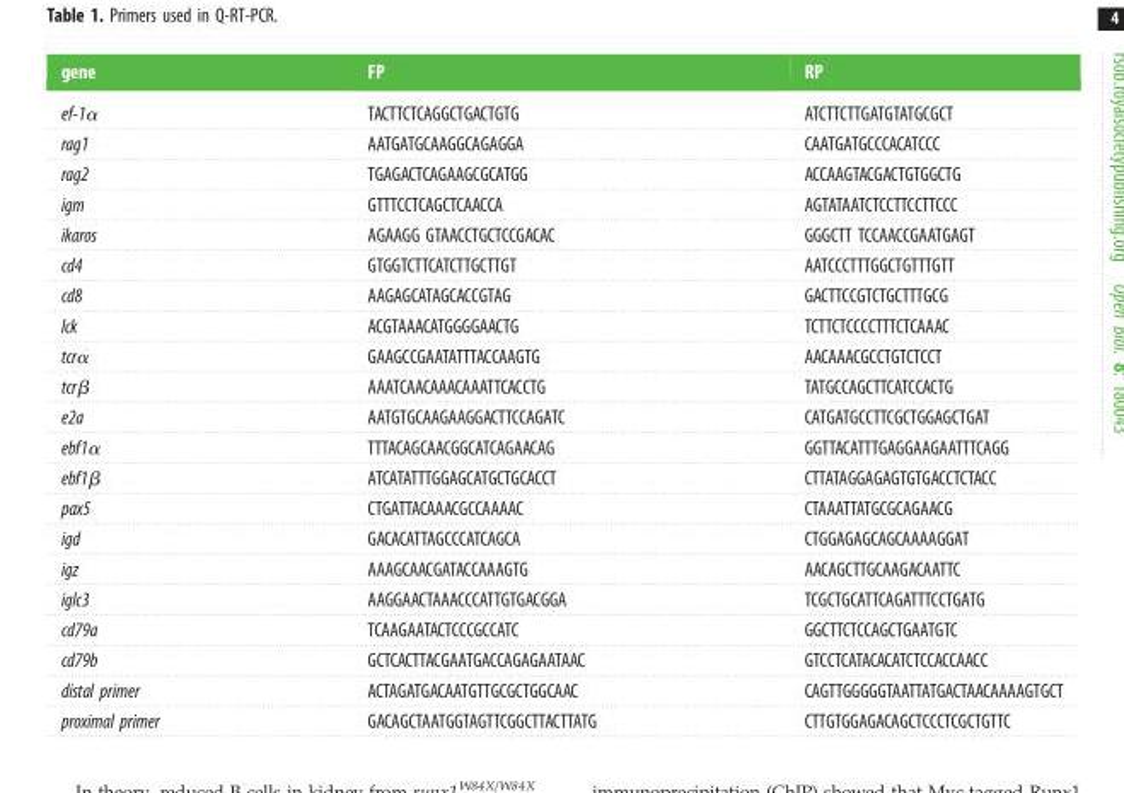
<table><thead><tr><td>gene</td><td>FP</td><td>RP</td></tr></thead><tbody><tr><td>ef-1α</td><td>TACTTCTCAGGCTGACTGTG</td><td>ATCTTCTTGATGTATGCGCT</td></tr><tr><td>rag1</td><td>AATGATGCAAGGCAGAGGA</td><td>CAATGATGCCCACATCCC</td></tr><tr><td>rag2</td><td>TGAGACTCAGAAGCGCATGG</td><td>ACCAAGTACGACTGTGGCTG</td></tr><tr><td>igm</td><td>GTTTCCTCAGCTCAACCA</td><td>AGTATAATCTCCTTCCTTCCC</td></tr><tr><td>ikaros</td><td>AGAAGG GTAACCTGCTCCGACAC</td><td>GGGCTT TCCAACCGAATGAGT</td></tr><tr><td>cd4</td><td>GTGGTCTTCATCTTGCTTGT</td><td>AATCCCTTTGGCTGTTTGTT</td></tr><tr><td>cd8</td><td>AAGAGCATAGCACCGTAG</td><td>GACTTCCGTCTGCTTTGCG</td></tr><tr><td>lck</td><td>ACGTAAACATGGGGAACTG</td><td>TCTTCTCCCCTTTCTCAAAC</td></tr><tr><td>tcrα</td><td>GAAGCCGAATATTTACCAAGTG</td><td>AACAAACGCCTGTCTCCT</td></tr><tr><td>tcrβ</td><td>AAATCAACAAACAAATTCACCTG</td><td>TATGCCAGCTTCATCCACTG</td></tr><tr><td>e2a</td><td>AATGTGCAAGAAGGACTTCCAGATC</td><td>CATGATGCCTTCGCTGGAGCTGAT</td></tr><tr><td>ebf1α</td><td>TTTACAGCAACGGCATCAGAACAG</td><td>GGTTACATTTGAGGAAGAATTTCAGG</td></tr><tr><td>ebf1β</td><td>ATCATATTTGGAGCATGCTGCACCT</td><td>CTTATAGGAGAGTGTGACCTCTACC</td></tr><tr><td>pax5</td><td>CTGATTACAAACGCCAAAAC</td><td>CTAAATTATGCGCAGAACG</td></tr><tr><td>igd</td><td>GACACATTAGCCCATCAGCA</td><td>CTGGAGAGCAGCAAAAGGAT</td></tr><tr><td>igz</td><td>AAAGCAACGATACCAAAGTG</td><td>AACAGCTTGCAAGACAATTC</td></tr><tr><td>iglc3</td><td>AAGGAACTAAACCCATTGTGACGGA</td><td>TCGCTGCATTCAGATTTCCTGATG</td></tr><tr><td>cd79a</td><td>TCAAGAATACTCCCGCCATC</td><td>GGCTTCTCCAGCTGAATGTC</td></tr><tr><td>cd79b</td><td>GCTCACTTACGAATGACCAGAGAATAAC</td><td>GTCCTCATACACATCTCCACCAACC</td></tr><tr><td>distal primer</td><td>ACTAGATGACAATGTTGCGCTGGCAAC</td><td>CAGTTGGGGGTAATTATGACTAACAAAAGTGCT</td></tr><tr><td>proximal primer</td><td>GACAGCTAATGGTAGTTCGGCTTACTTATG</td><td>CTTGTGGAGACAGCTCCCTCGCTGTTC</td></tr></tbody></table>